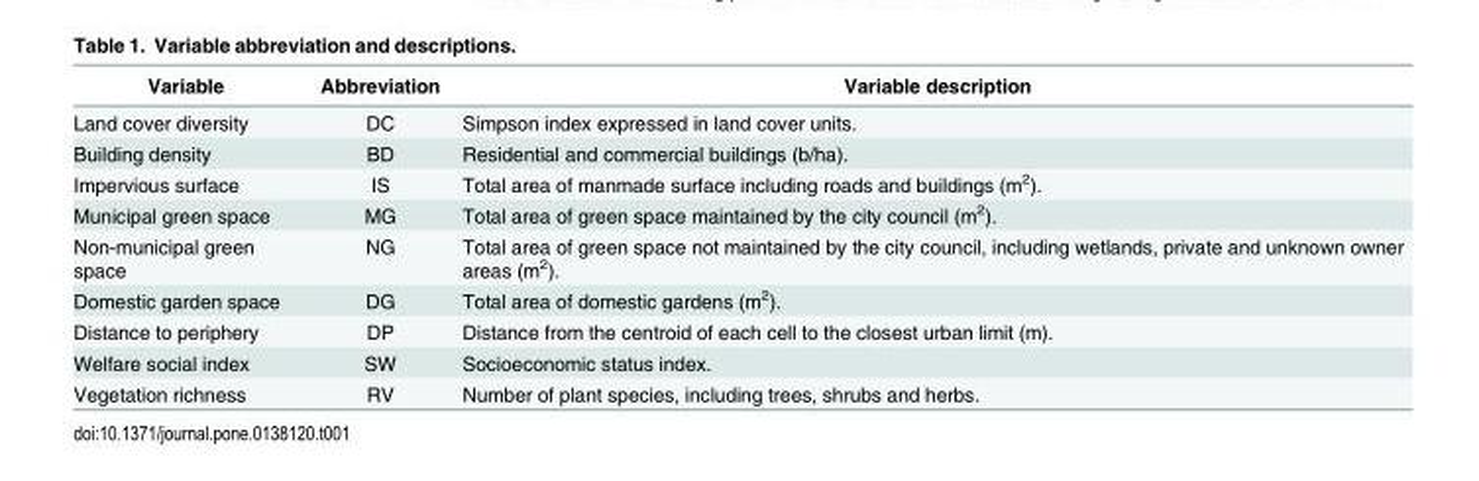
<table><thead><tr><td>Variable</td><td>Abbreviation</td><td>Variable description</td></tr></thead><tbody><tr><td>Land cover diversity</td><td>DC</td><td>Simpson index expressed in land cover units.</td></tr><tr><td>Building density</td><td>BD</td><td>Residential and commercial buildings (b/ha).</td></tr><tr><td>Impervious surface</td><td>IS</td><td>Total area of manmade surface including roads and buildings (m<sup>2</sup>).</td></tr><tr><td>Municipal green space</td><td>MG</td><td>Total area of green space maintained by the city council (m<sup>2</sup>).</td></tr><tr><td>Non-municipal green space</td><td>NG</td><td>Total area of green space not maintained by the city council, including wetlands, private and unknown owner areas (m<sup>2</sup>).</td></tr><tr><td>Domestic garden space</td><td>DG</td><td>Total area of domestic gardens (m<sup>2</sup>).</td></tr><tr><td>Distance to periphery</td><td>DP</td><td>Distance from the centroid of each cell to the closest urban limit (m).</td></tr><tr><td>Welfare social index</td><td>SW</td><td>Socioeconomic status index.</td></tr><tr><td>Vegetation richness</td><td>RV</td><td>Number of plant species, including trees, shrubs and herbs.</td></tr></tbody></table>